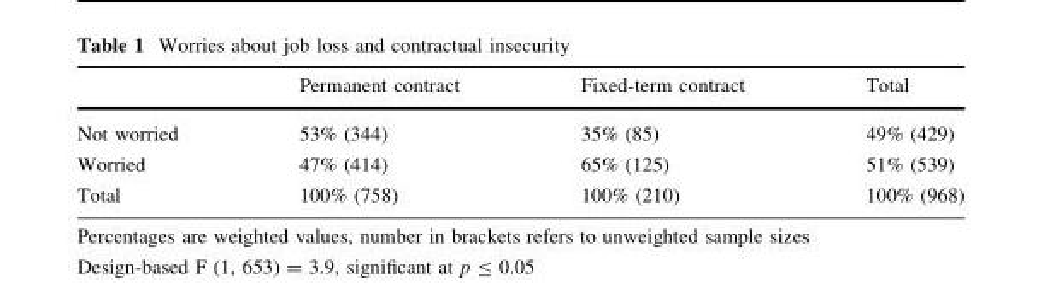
<table><thead><tr><td></td><td>Permanent contract</td><td>Fixed-term contract</td><td>Total</td></tr></thead><tbody><tr><td>Not worried</td><td>53% (344)</td><td>35% (85)</td><td>49% (429)</td></tr><tr><td>Worried</td><td>47% (414)</td><td>65% (125)</td><td>51% (539)</td></tr><tr><td>Total</td><td>100% (758)</td><td>100% (210)</td><td>100% (968)</td></tr></tbody></table>